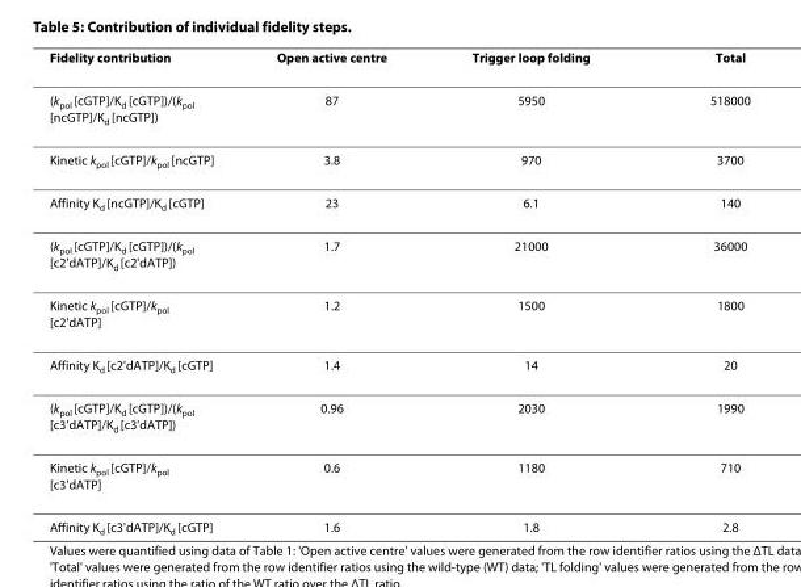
<table><thead><tr><td>Fidelity contribution</td><td>Open active centre</td><td>Trigger loop folding</td><td>Total</td></tr></thead><tbody><tr><td>(k<sub>pol</sub> [cGTP]/K<sub>d</sub> [cGTP])/(k<sub>pol</sub> [ncGTP]/K<sub>d</sub> [ncGTP])</td><td>87</td><td>5950</td><td>518000</td></tr><tr><td>Kinetic k<sub>pol</sub> [cGTP]/k<sub>pol</sub> [ncGTP]</td><td>3.8</td><td>970</td><td>3700</td></tr><tr><td>Affinity K<sub>d</sub> [ncGTP]/K<sub>d</sub> [cGTP]</td><td>23</td><td>6.1</td><td>140</td></tr><tr><td>(k<sub>pol</sub> [cGTP]/K<sub>d</sub> [cGTP])/(k<sub>pol</sub> [c2&#x27;dATP]/K<sub>d</sub> [c2&#x27;dATP])</td><td>1.7</td><td>21000</td><td>36000</td></tr><tr><td>Kinetic k<sub>pol</sub> [cGTP]/k<sub>pol</sub> [c2&#x27;dATP]</td><td>1.2</td><td>1500</td><td>1800</td></tr><tr><td>Affinity K<sub>d</sub> [c2&#x27;dATP]/K<sub>d</sub> [cGTP]</td><td>1.4</td><td>14</td><td>20</td></tr><tr><td>(k<sub>pol</sub> [cGTP]/K<sub>d</sub> [cGTP])/(k<sub>pol</sub> [c3&#x27;dATP]/K<sub>d</sub> [c3&#x27;dATP])</td><td>0.96</td><td>2030</td><td>1990</td></tr><tr><td>Kinetic k<sub>pol</sub> [cGTP]/k<sub>pol</sub> [c3&#x27;dATP]</td><td>0.6</td><td>1180</td><td>710</td></tr><tr><td>Affinity K<sub>d</sub> [c3&#x27;dATP]/K<sub>d</sub> [cGTP]</td><td>1.6</td><td>1.8</td><td>2.8</td></tr></tbody></table>